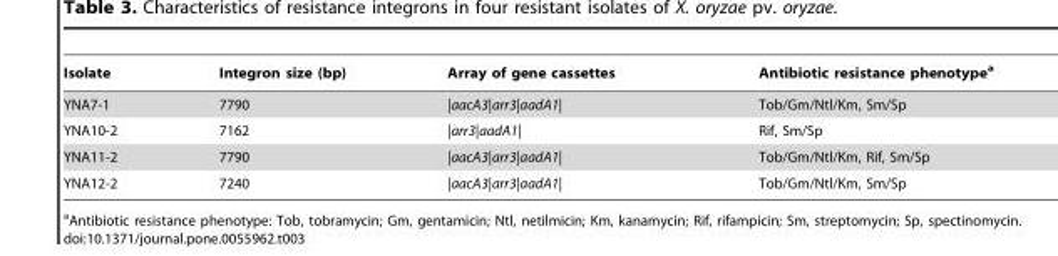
<table><thead><tr><td>Isolate</td><td>Integron size (bp)</td><td>Array of gene cassettes</td><td>Antibiotic resistance phenotype<sup>a</sup></td></tr></thead><tbody><tr><td>YNA7-1</td><td>7790</td><td>|aacA3|arr3|aadA1|</td><td>Tob/Gm/Ntl/Km, Sm/Sp</td></tr><tr><td>YNA10-2</td><td>7162</td><td>|arr3|aadA1|</td><td>Rif, Sm/Sp</td></tr><tr><td>YNA11-2</td><td>7790</td><td>|aacA3|arr3|aadA1|</td><td>Tob/Gm/Ntl/Km, Rif, Sm/Sp</td></tr><tr><td>YNA12-2</td><td>7240</td><td>|aacA3|arr3|aadA1|</td><td>Tob/Gm/Ntl/Km, Sm/Sp</td></tr></tbody></table>